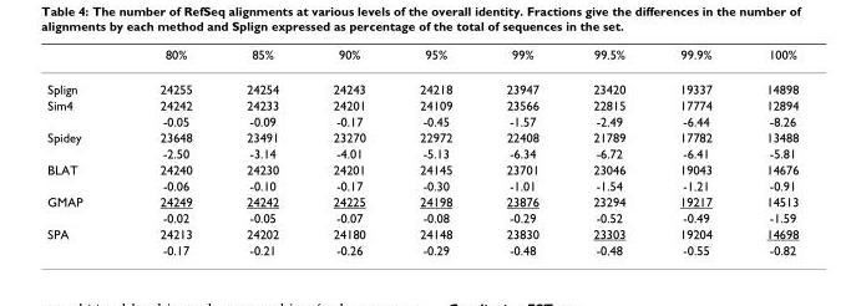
<table><thead><tr><td></td><td>80%</td><td>85%</td><td>90%</td><td>95%</td><td>99%</td><td>99.5%</td><td>99.9%</td><td>100%</td></tr></thead><tbody><tr><td>Splign</td><td>24255</td><td>24254</td><td>24243</td><td>24218</td><td>23947</td><td>23420</td><td>19337</td><td>14898</td></tr><tr><td rowspan="2">Sim4</td><td>24242</td><td>24233</td><td>24201</td><td>24109</td><td>23566</td><td>22815</td><td>17774</td><td>12894</td></tr><tr><td>-0.05</td><td>-0.09</td><td>-0.17</td><td>-0.45</td><td>-1.57</td><td>-2.49</td><td>-6.44</td><td>-8.26</td></tr><tr><td rowspan="2">Spidey</td><td>23648</td><td>23491</td><td>23270</td><td>22972</td><td>22408</td><td>21789</td><td>17782</td><td>13488</td></tr><tr><td>-2.50</td><td>-3.14</td><td>-4.01</td><td>-5.13</td><td>-6.34</td><td>-6.72</td><td>-6.41</td><td>-5.81</td></tr><tr><td rowspan="2">BLAT</td><td>24240</td><td>24230</td><td>24201</td><td>24145</td><td>23701</td><td>23046</td><td>19043</td><td>14676</td></tr><tr><td>-0.06</td><td>-0.10</td><td>-0.17</td><td>-0.30</td><td>-1.01</td><td>-1.54</td><td>-1.21</td><td>-0.91</td></tr><tr><td rowspan="2">GMAP</td><td>24249</td><td>24242</td><td>24225</td><td>24198</td><td>23876</td><td>23294</td><td>19217</td><td>14513</td></tr><tr><td>-0.02</td><td>-0.05</td><td>-0.07</td><td>-0.08</td><td>-0.29</td><td>-0.52</td><td>-0.49</td><td>-1.59</td></tr><tr><td rowspan="2">SPA</td><td>24213</td><td>24202</td><td>24180</td><td>24148</td><td>23830</td><td>23303</td><td>19204</td><td>14698</td></tr><tr><td>-0.17</td><td>-0.21</td><td>-0.26</td><td>-0.29</td><td>-0.48</td><td>-0.48</td><td>-0.55</td><td>-0.82</td></tr></tbody></table>